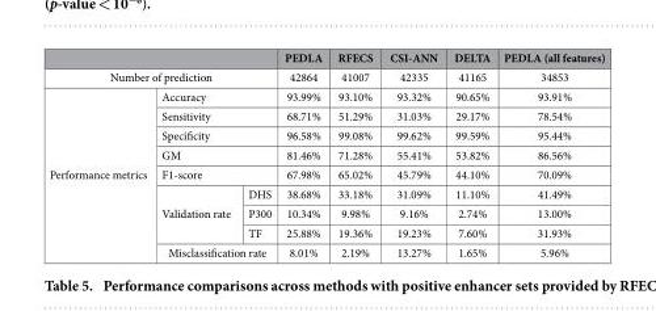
<table><thead><tr><td></td><td></td><td></td><td>PEDLA</td><td>RFECS</td><td>CSI-ANN</td><td>DELTA</td><td>PEDLA (all features)</td></tr></thead><tbody><tr><td colspan="3">Number of prediction</td><td>42864</td><td>41007</td><td>42335</td><td>41165</td><td>34853</td></tr><tr><td rowspan="9">Performance metrics</td><td colspan="2">Accuracy</td><td>93.99%</td><td>93.10%</td><td>93.32%</td><td>90.65%</td><td>93.91%</td></tr><tr><td colspan="2">Sensitivity</td><td>68.71%</td><td>51.29%</td><td>31.03%</td><td>29.17%</td><td>78.54%</td></tr><tr><td colspan="2">Specificity</td><td>96.58%</td><td>99.08%</td><td>99.62%</td><td>99.59%</td><td>95.44%</td></tr><tr><td colspan="2">GM</td><td>81.46%</td><td>71.28%</td><td>55.41%</td><td>53.82%</td><td>86.56%</td></tr><tr><td colspan="2">F1-score</td><td>67.98%</td><td>65.02%</td><td>45.79%</td><td>44.10%</td><td>70.09%</td></tr><tr><td rowspan="3">Validation rate</td><td>DHS</td><td>38.68%</td><td>33.18%</td><td>31.09%</td><td>11.10%</td><td>41.49%</td></tr><tr><td>P300</td><td>10.34%</td><td>9.98%</td><td>9.16%</td><td>2.74%</td><td>13.00%</td></tr><tr><td>TF</td><td>25.88%</td><td>19.36%</td><td>19.23%</td><td>7.60%</td><td>31.93%</td></tr><tr><td colspan="2">Misclassification rate</td><td>8.01%</td><td>2.19%</td><td>13.27%</td><td>1.65%</td><td>5.96%</td></tr></tbody></table>